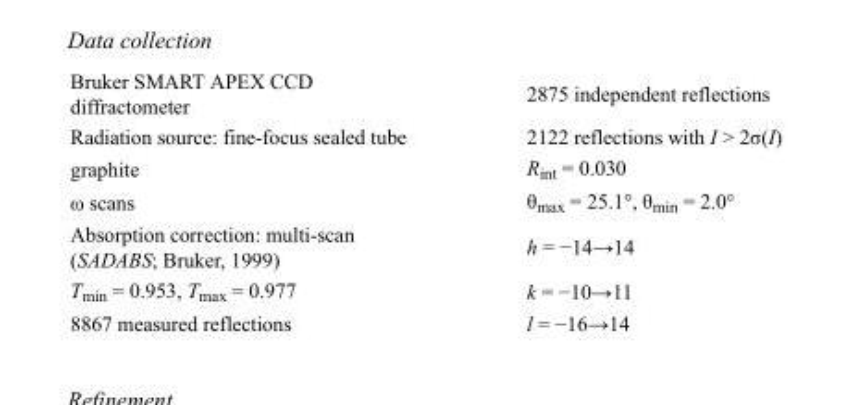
<table><tbody><tr><td>Bruker SMART APEX CCD diffractometer</td><td>2875 independent reflections</td></tr><tr><td>Radiation source: fine-focus sealed tube</td><td>2122 reflections with I &gt; 2σ(I)</td></tr><tr><td>graphite</td><td>R<sub>int</sub> = 0.030</td></tr><tr><td>ω scans</td><td>θ<sub>max</sub> = 25.1°, θ<sub>min</sub> = 2.0°</td></tr><tr><td>Absorption correction: multi-scan (SADABS; Bruker, 1999)</td><td>h = −14→14</td></tr><tr><td>T<sub>min</sub> = 0.953, T<sub>max</sub> = 0.977</td><td>k = −10→11</td></tr><tr><td>8867 measured reflections</td><td>l = −16→14</td></tr></tbody></table>